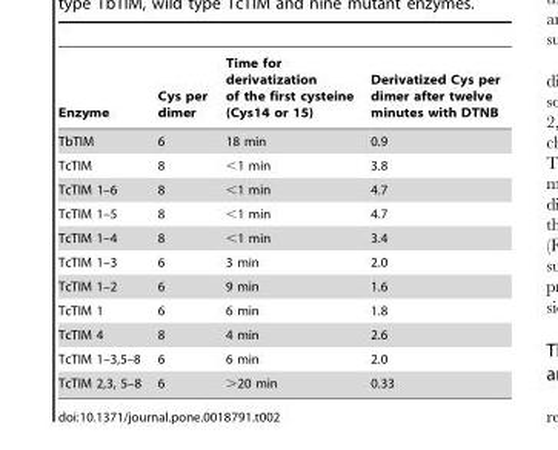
<table><thead><tr><td>Enzyme</td><td>Cys per dimer</td><td>Time for derivatization of the first cysteine (Cys14 or 15)</td><td>Derivatized Cys per dimer after twelve minutes with DTNB</td></tr></thead><tbody><tr><td>TbTIM</td><td>6</td><td>18 min</td><td>0.9</td></tr><tr><td>TcTIM</td><td>8</td><td>&lt;1 min</td><td>3.8</td></tr><tr><td>TcTIM 1–6</td><td>8</td><td>&lt;1 min</td><td>4.7</td></tr><tr><td>TcTIM 1–5</td><td>8</td><td>&lt;1 min</td><td>4.7</td></tr><tr><td>TcTIM 1–4</td><td>8</td><td>&lt;1 min</td><td>3.4</td></tr><tr><td>TcTIM 1–3</td><td>6</td><td>3 min</td><td>2.0</td></tr><tr><td>TcTIM 1–2</td><td>6</td><td>9 min</td><td>1.6</td></tr><tr><td>TcTIM 1</td><td>6</td><td>6 min</td><td>1.8</td></tr><tr><td>TcTIM 4</td><td>8</td><td>4 min</td><td>2.6</td></tr><tr><td>TcTIM 1–3,5–8</td><td>6</td><td>6 min</td><td>2.0</td></tr><tr><td>TcTIM 2,3, 5–8</td><td>6</td><td>&gt;20 min</td><td>0.33</td></tr></tbody></table>